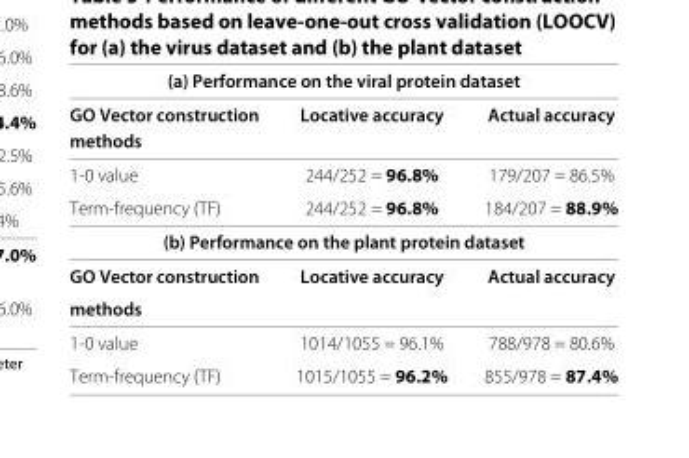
<table><thead><tr><td colspan="3">(a) Performance on the viral protein dataset</td></tr><tr><td>GO Vector construction</td><td>Locative accuracy</td><td>Actual accuracy</td></tr></thead><tbody><tr><td colspan="3">methods</td></tr><tr><td>1-0 value</td><td>244/252 = 96.8%</td><td>179/207 = 86.5%</td></tr><tr><td>Term-frequency (TF)</td><td>244/252 = 96.8%</td><td>184/207 = 88.9%</td></tr><tr><td colspan="3">(b) Performance on the plant protein dataset</td></tr><tr><td>GO Vector construction</td><td>Locative accuracy</td><td>Actual accuracy</td></tr><tr><td colspan="3">methods</td></tr><tr><td>1-0 value</td><td>1014/1055 = 96.1%</td><td>788/978 = 80.6%</td></tr><tr><td>Term-frequency (TF)</td><td>1015/1055 = 96.2%</td><td>855/978 = 87.4%</td></tr></tbody></table>